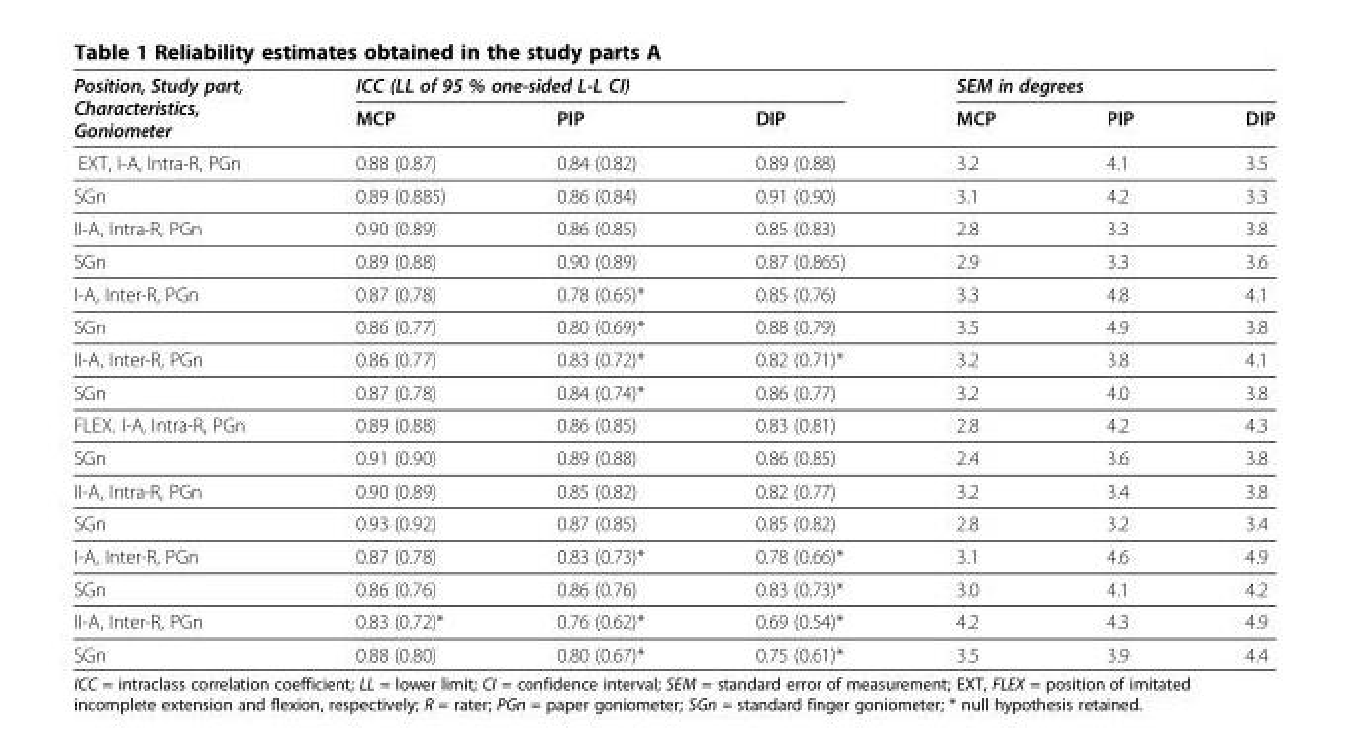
<table><thead><tr><td rowspan="2">Position, Study part, Characteristics, Goniometer</td><td colspan="3">ICC (LL of 95 % one-sided L-L CI)</td><td colspan="3">SEM in degrees</td></tr><tr><td>MCP</td><td>PIP</td><td>DIP</td><td>MCP</td><td>PIP</td><td>DIP</td></tr></thead><tbody><tr><td>EXT, I-A, Intra-R, PGn</td><td>0.88 (0.87)</td><td>0.84 (0.82)</td><td>0.89 (0.88)</td><td>3.2</td><td>4.1</td><td>3.5</td></tr><tr><td>SGn</td><td>0.89 (0.885)</td><td>0.86 (0.84)</td><td>0.91 (0.90)</td><td>3.1</td><td>4.2</td><td>3.3</td></tr><tr><td>II-A, Intra-R, PGn</td><td>0.90 (0.89)</td><td>0.86 (0.85)</td><td>0.85 (0.83)</td><td>2.8</td><td>3.3</td><td>3.8</td></tr><tr><td>SGn</td><td>0.89 (0.88)</td><td>0.90 (0.89)</td><td>0.87 (0.865)</td><td>2.9</td><td>3.3</td><td>3.6</td></tr><tr><td>I-A, Inter-R, PGn</td><td>0.87 (0.78)</td><td>0.78 (0.65)*</td><td>0.85 (0.76)</td><td>3.3</td><td>4.8</td><td>4.1</td></tr><tr><td>SGn</td><td>0.86 (0.77)</td><td>0.80 (0.69)*</td><td>0.88 (0.79)</td><td>3.5</td><td>4.9</td><td>3.8</td></tr><tr><td>II-A, Inter-R, PGn</td><td>0.86 (0.77)</td><td>0.83 (0.72)*</td><td>0.82 (0.71)*</td><td>3.2</td><td>3.8</td><td>4.1</td></tr><tr><td>SGn</td><td>0.87 (0.78)</td><td>0.84 (0.74)*</td><td>0.86 (0.77)</td><td>3.2</td><td>4.0</td><td>3.8</td></tr><tr><td>FLEX. I-A, Intra-R, PGn</td><td>0.89 (0.88)</td><td>0.86 (0.85)</td><td>0.83 (0.81)</td><td>2.8</td><td>4.2</td><td>4.3</td></tr><tr><td>SGn</td><td>0.91 (0.90)</td><td>0.89 (0.88)</td><td>0.86 (0.85)</td><td>2.4</td><td>3.6</td><td>3.8</td></tr><tr><td>II-A, Intra-R, PGn</td><td>0.90 (0.89)</td><td>0.85 (0.82)</td><td>0.82 (0.77)</td><td>3.2</td><td>3.4</td><td>3.8</td></tr><tr><td>SGn</td><td>0.93 (0.92)</td><td>0.87 (0.85)</td><td>0.85 (0.82)</td><td>2.8</td><td>3.2</td><td>3.4</td></tr><tr><td>I-A, Inter-R, PGn</td><td>0.87 (0.78)</td><td>0.83 (0.73)*</td><td>0.78 (0.66)*</td><td>3.1</td><td>4.6</td><td>4.9</td></tr><tr><td>SGn</td><td>0.86 (0.76)</td><td>0.86 (0.76)</td><td>0.83 (0.73)*</td><td>3.0</td><td>4.1</td><td>4.2</td></tr><tr><td>II-A, Inter-R, PGn</td><td>0.83 (0.72)*</td><td>0.76 (0.62)*</td><td>0.69 (0.54)*</td><td>4.2</td><td>4.3</td><td>4.9</td></tr><tr><td>SGn</td><td>0.88 (0.80)</td><td>0.80 (0.67)*</td><td>0.75 (0.61)*</td><td>3.5</td><td>3.9</td><td>4.4</td></tr></tbody></table>